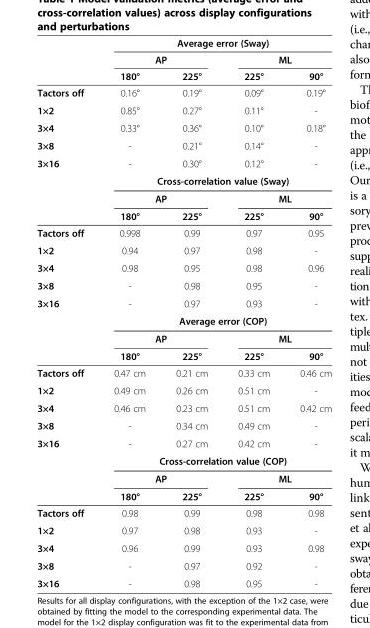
<table><thead><tr><td rowspan="3"></td><td colspan="4">Average error (Sway)</td></tr><tr><td colspan="2">AP</td><td colspan="2">ML</td></tr><tr><td>180°</td><td>225°</td><td>225°</td><td>90°</td></tr></thead><tbody><tr><td>Tactors off</td><td>0.16°</td><td>0.19°</td><td>0.09°</td><td>0.19°</td></tr><tr><td>1×2</td><td>0.85°</td><td>0.27°</td><td>0.11°</td><td>-</td></tr><tr><td>3×4</td><td>0.33°</td><td>0.36°</td><td>0.10°</td><td>0.18°</td></tr><tr><td>3×8</td><td>-</td><td>0.21°</td><td>0.14°</td><td>-</td></tr><tr><td rowspan="4">3×16</td><td>-</td><td>0.30°</td><td>0.12°</td><td>-</td></tr><tr><td colspan="4">Cross-correlation value (Sway)</td></tr><tr><td colspan="2">AP</td><td colspan="2">ML</td></tr><tr><td>180°</td><td>225°</td><td>225°</td><td>90°</td></tr><tr><td>Tactors off</td><td>0.998</td><td>0.99</td><td>0.97</td><td>0.95</td></tr><tr><td>1×2</td><td>0.94</td><td>0.97</td><td>0.98</td><td>-</td></tr><tr><td>3×4</td><td>0.98</td><td>0.95</td><td>0.98</td><td>0.96</td></tr><tr><td>3×8</td><td>-</td><td>0.98</td><td>0.95</td><td>-</td></tr><tr><td rowspan="4">3×16</td><td>-</td><td>0.97</td><td>0.93</td><td>-</td></tr><tr><td colspan="4">Average error (COP)</td></tr><tr><td colspan="2">AP</td><td colspan="2">ML</td></tr><tr><td>180°</td><td>225°</td><td>225°</td><td>90°</td></tr><tr><td>Tactors off</td><td>0.47 cm</td><td>0.21 cm</td><td>0.33 cm</td><td>0.46 cm</td></tr><tr><td>1×2</td><td>0.49 cm</td><td>0.26 cm</td><td>0.51 cm</td><td>-</td></tr><tr><td>3×4</td><td>0.46 cm</td><td>0.23 cm</td><td>0.51 cm</td><td>0.42 cm</td></tr><tr><td>3×8</td><td>-</td><td>0.34 cm</td><td>0.49 cm</td><td>-</td></tr><tr><td rowspan="4">3×16</td><td>-</td><td>0.27 cm</td><td>0.42 cm</td><td>-</td></tr><tr><td colspan="4">Cross-correlation value (COP)</td></tr><tr><td colspan="2">AP</td><td colspan="2">ML</td></tr><tr><td>180°</td><td>225°</td><td>225°</td><td>90°</td></tr><tr><td>Tactors off</td><td>0.98</td><td>0.99</td><td>0.98</td><td>0.98</td></tr><tr><td>1×2</td><td>0.97</td><td>0.98</td><td>0.93</td><td>-</td></tr><tr><td>3×4</td><td>0.96</td><td>0.99</td><td>0.93</td><td>0.98</td></tr><tr><td>3×8</td><td>-</td><td>0.97</td><td>0.92</td><td>-</td></tr><tr><td>3×16</td><td>-</td><td>0.98</td><td>0.95</td><td>-</td></tr></tbody></table>